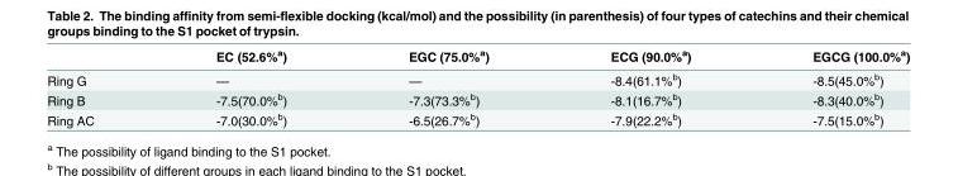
<table><thead><tr><td></td><td>EC (52.6%<sup>a</sup>)</td><td>EGC (75.0%<sup>a</sup>)</td><td>ECG (90.0%<sup>a</sup>)</td><td>EGCG (100.0%<sup>a</sup>)</td></tr></thead><tbody><tr><td>Ring G</td><td>—</td><td>—</td><td>-8.4(61.1%<sup>b</sup>)</td><td>-8.5(45.0%<sup>b</sup>)</td></tr><tr><td>Ring B</td><td>-7.5(70.0%<sup>b</sup>)</td><td>-7.3(73.3%<sup>b</sup>)</td><td>-8.1(16.7%<sup>b</sup>)</td><td>-8.3(40.0%<sup>b</sup>)</td></tr><tr><td>Ring AC</td><td>-7.0(30.0%<sup>b</sup>)</td><td>-6.5(26.7%<sup>b</sup>)</td><td>-7.9(22.2%<sup>b</sup>)</td><td>-7.5(15.0%<sup>b</sup>)</td></tr></tbody></table>